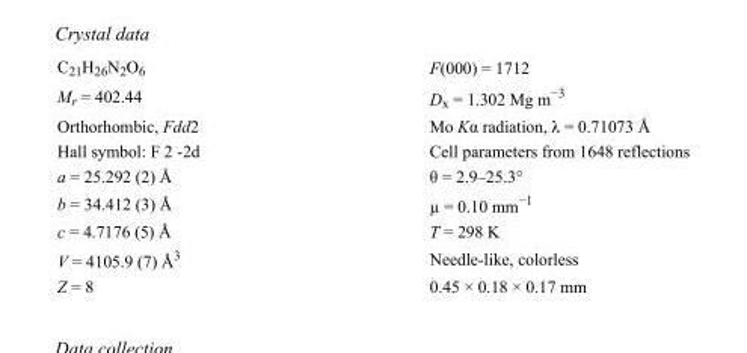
<table><tbody><tr><td>C<sub>21</sub>H<sub>26</sub>N<sub>2</sub>O<sub>6</sub></td><td>F(000) = 1712</td></tr><tr><td>M<sub>r</sub> = 402.44</td><td>D<sub>x</sub> = 1.302 Mg m<sup>−3</sup></td></tr><tr><td>Orthorhombic, Fdd2</td><td>Mo Kα radiation, λ = 0.71073 Å</td></tr><tr><td>Hall symbol: F 2 -2d</td><td>Cell parameters from 1648 reflections</td></tr><tr><td>a = 25.292 (2) Å</td><td>θ = 2.9–25.3°</td></tr><tr><td>b = 34.412 (3) Å</td><td>µ = 0.10 mm<sup>−1</sup></td></tr><tr><td>c = 4.7176 (5) Å</td><td>T = 298 K</td></tr><tr><td>V = 4105.9 (7) Å<sup>3</sup></td><td>Needle-like, colorless</td></tr><tr><td>Z = 8</td><td>0.45 × 0.18 × 0.17 mm</td></tr></tbody></table>